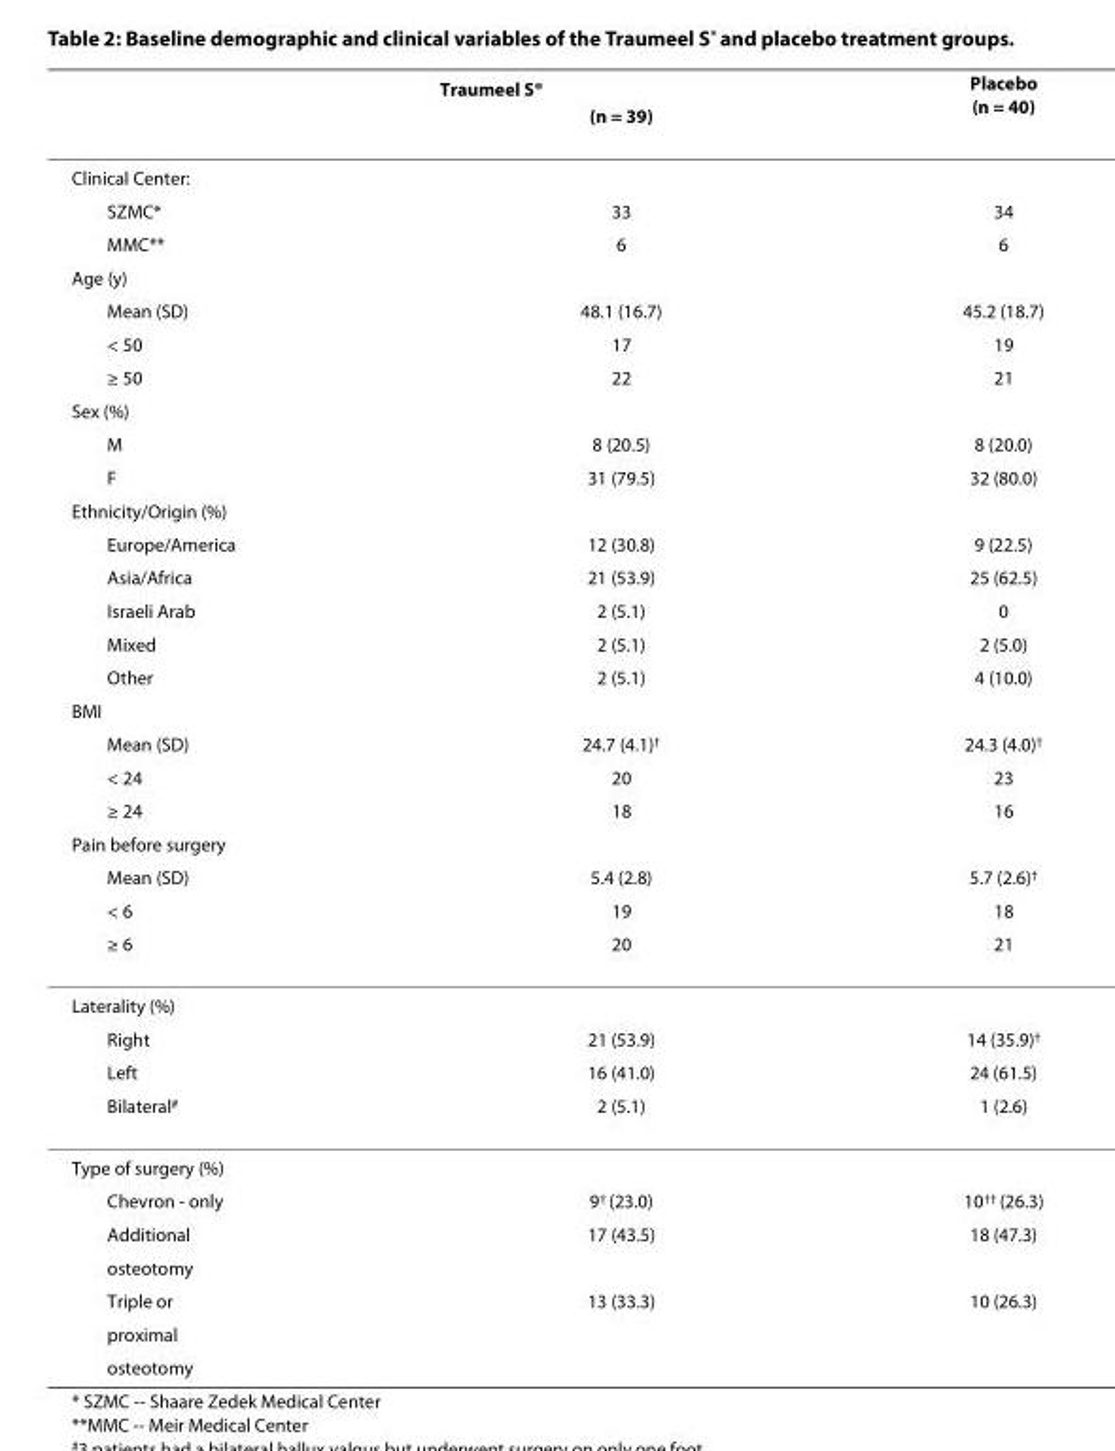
<table><thead><tr><td></td><td>Traumeel S<sup>®</sup> (n = 39)</td><td>Placebo (n = 40)</td></tr></thead><tbody><tr><td colspan="3">Clinical Center:</td></tr><tr><td>SZMC*</td><td>33</td><td>34</td></tr><tr><td>MMC**</td><td>6</td><td>6</td></tr><tr><td colspan="3">Age (y)</td></tr><tr><td>Mean (SD)</td><td>48.1 (16.7)</td><td>45.2 (18.7)</td></tr><tr><td>&lt; 50</td><td>17</td><td>19</td></tr><tr><td>≥ 50</td><td>22</td><td>21</td></tr><tr><td colspan="3">Sex (%)</td></tr><tr><td>M</td><td>8 (20.5)</td><td>8 (20.0)</td></tr><tr><td>F</td><td>31 (79.5)</td><td>32 (80.0)</td></tr><tr><td colspan="3">Ethnicity/Origin (%)</td></tr><tr><td>Europe/America</td><td>12 (30.8)</td><td>9 (22.5)</td></tr><tr><td>Asia/Africa</td><td>21 (53.9)</td><td>25 (62.5)</td></tr><tr><td>Israeli Arab</td><td>2 (5.1)</td><td>0</td></tr><tr><td>Mixed</td><td>2 (5.1)</td><td>2 (5.0)</td></tr><tr><td>Other</td><td>2 (5.1)</td><td>4 (10.0)</td></tr><tr><td colspan="3">BMI</td></tr><tr><td>Mean (SD)</td><td>24.7 (4.1)<sup>†</sup></td><td>24.3 (4.0)<sup>†</sup></td></tr><tr><td>&lt; 24</td><td>20</td><td>23</td></tr><tr><td>≥ 24</td><td>18</td><td>16</td></tr><tr><td colspan="3">Pain before surgery</td></tr><tr><td>Mean (SD)</td><td>5.4 (2.8)</td><td>5.7 (2.6)<sup>†</sup></td></tr><tr><td>&lt; 6</td><td>19</td><td>18</td></tr><tr><td>≥ 6</td><td>20</td><td>21</td></tr><tr><td colspan="3">Laterality (%)</td></tr><tr><td>Right</td><td>21 (53.9)</td><td>14 (35.9)<sup>†</sup></td></tr><tr><td>Left</td><td>16 (41.0)</td><td>24 (61.5)</td></tr><tr><td>Bilateral<sup>#</sup></td><td>2 (5.1)</td><td>1 (2.6)</td></tr><tr><td colspan="3">Type of surgery (%)</td></tr><tr><td>Chevron - only</td><td>9<sup>†</sup> (23.0)</td><td>10<sup>††</sup> (26.3)</td></tr><tr><td>Additional</td><td>17 (43.5)</td><td>18 (47.3)</td></tr><tr><td colspan="3">osteotomy</td></tr><tr><td>Triple or</td><td>13 (33.3)</td><td>10 (26.3)</td></tr><tr><td colspan="3">proximal</td></tr><tr><td>osteotomy</td><td></td><td></td></tr></tbody></table>